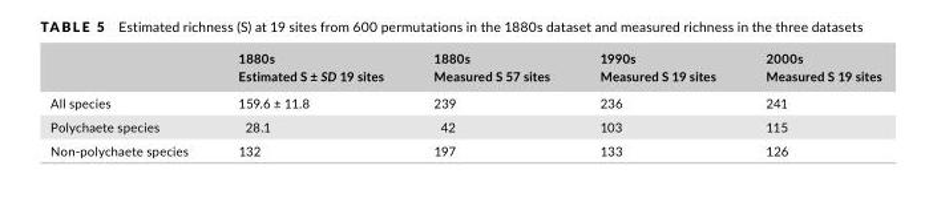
<table><thead><tr><td></td><td>1880s Estimated S ± SD 19 sites</td><td>1880s Measured S 57 sites</td><td>1990s Measured S 19 sites</td><td>2000s Measured S 19 sites</td></tr></thead><tbody><tr><td>All species</td><td>159.6 ± 11.8</td><td>239</td><td>236</td><td>241</td></tr><tr><td>Polychaete species</td><td>28.1</td><td>42</td><td>103</td><td>115</td></tr><tr><td>Non- polychaete species</td><td>132</td><td>197</td><td>133</td><td>126</td></tr></tbody></table>